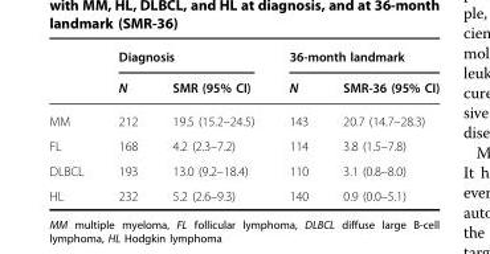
<table><thead><tr><td rowspan="2"></td><td colspan="2">Diagnosis</td><td colspan="2">36-month landmark</td></tr><tr><td>N</td><td>SMR (95% CI)</td><td>N</td><td>SMR-36 (95% CI)</td></tr></thead><tbody><tr><td>MM</td><td>212</td><td>19.5 (15.2–24.5)</td><td>143</td><td>20.7 (14.7–28.3)</td></tr><tr><td>FL</td><td>168</td><td>4.2 (2.3–7.2)</td><td>114</td><td>3.8 (1.5–7.8)</td></tr><tr><td>DLBCL</td><td>193</td><td>13.0 (9.2–18.4)</td><td>110</td><td>3.1 (0.8–8.0)</td></tr><tr><td>HL</td><td>232</td><td>5.2 (2.6–9.3)</td><td>140</td><td>0.9 (0.0–5.1)</td></tr></tbody></table>